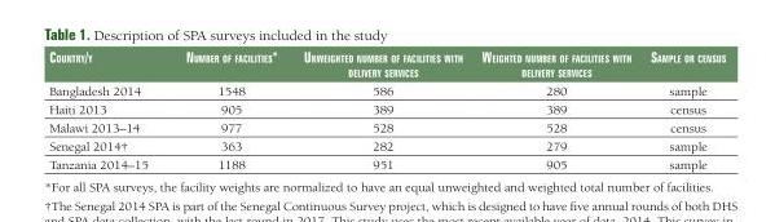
<table><thead><tr><td>Country/y</td><td>number of faCilities*</td><td>unweighted number of faCilities with delivery serviCes</td><td>weighted number of faCilities with delivery serviCes</td><td>sample or Census</td></tr></thead><tbody><tr><td>Bangladesh 2014</td><td>1548</td><td>586</td><td>280</td><td>sample</td></tr><tr><td>Haiti 2013</td><td>905</td><td>389</td><td>389</td><td>census</td></tr><tr><td>Malawi 2013–14</td><td>977</td><td>528</td><td>528</td><td>census</td></tr><tr><td>Senegal 2014†</td><td>363</td><td>282</td><td>279</td><td>sample</td></tr><tr><td>Tanzania 2014–15</td><td>1188</td><td>951</td><td>905</td><td>sample</td></tr></tbody></table>